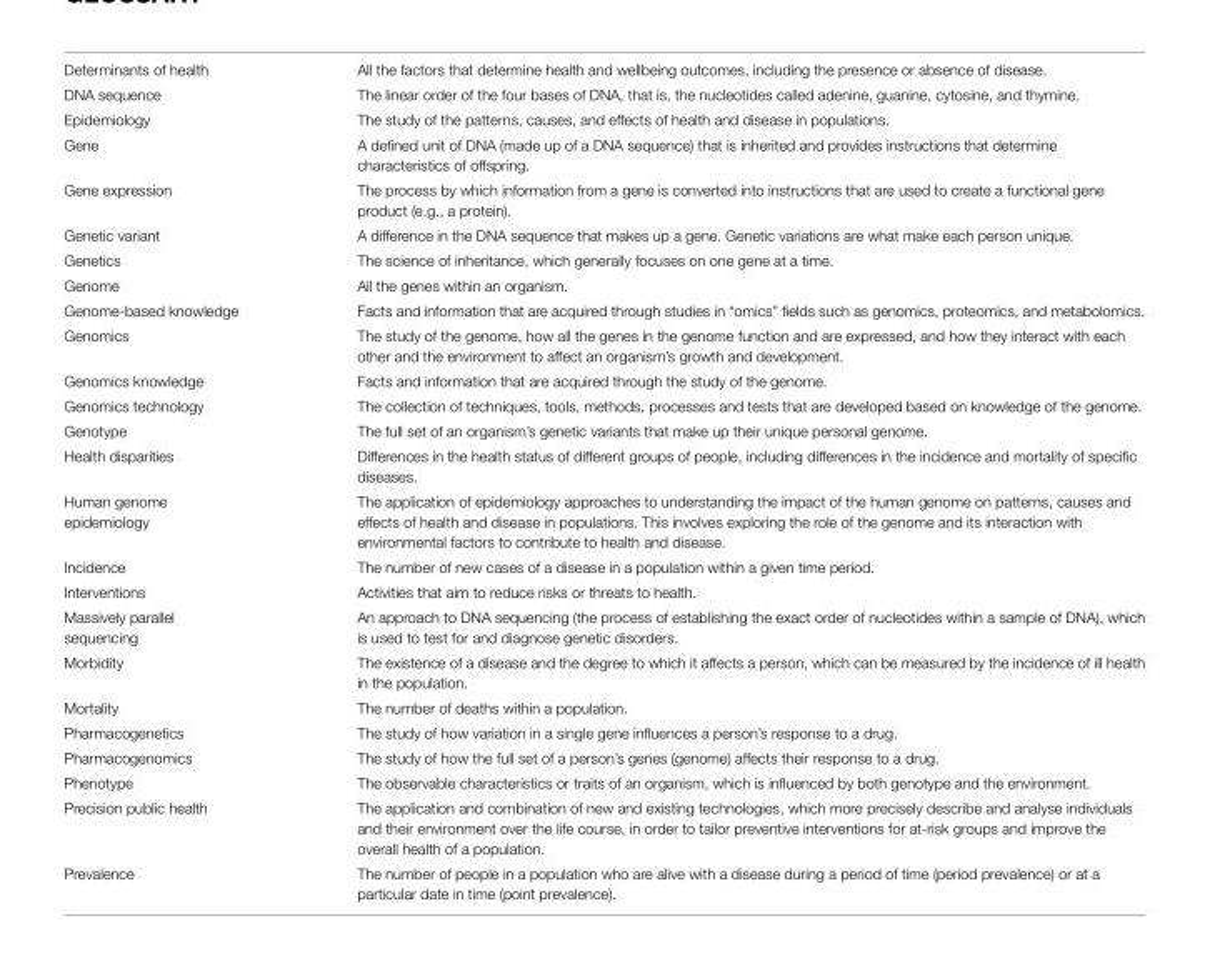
<table><tbody><tr><td>Determinants of health</td><td>All the factors that determine health and wellbeing outcomes, including the presence or absence of disease.</td></tr><tr><td>DNA sequence</td><td>The linear order of the four bases of DNA, that is, the nucleotides called adenine, guanine, cytosine, and thymine.</td></tr><tr><td>Epidemiology</td><td>The study of the patterns, causes, and effects of health and disease in populations.</td></tr><tr><td>Gene</td><td>A defined unit of DNA (made up of a DNA sequence) that is inherited and provides instructions that determine characteristics of offspring.</td></tr><tr><td>Gene expression</td><td>The process by which information from a gene is converted into instructions that are used to create a functional gene product (e.g., a protein).</td></tr><tr><td>Genetic variant</td><td>A difference in the DNA sequence that makes up a gene. Genetic variations are what make each person unique.</td></tr><tr><td>Genetics</td><td>The science of inheritance, which generally focuses on one gene at a time.</td></tr><tr><td>Genome</td><td>All the genes within an organism.</td></tr><tr><td>Genome-based knowledge</td><td>Facts and information that are acquired through studies in “omics” fields such as genomics, proteomics, and metabolomics.</td></tr><tr><td>Genomics</td><td>The study of the genome, how all the genes in the genome function and are expressed, and how they interact with each other and the environment to affect an organism’s growth and development.</td></tr><tr><td>Genomics knowledge</td><td>Facts and information that are acquired through the study of the genome.</td></tr><tr><td>Genomics technology</td><td>The collection of techniques, tools, methods, processes and tests that are developed based on knowledge of the genome.</td></tr><tr><td>Genotype</td><td>The full set of an organism’s genetic variants that make up their unique personal genome.</td></tr><tr><td>Health disparities</td><td>Differences in the health status of different groups of people, including differences in the incidence and mortality of specific diseases.</td></tr><tr><td>Human genome epidemiology</td><td>The application of epidemiology approaches to understanding the impact of the human genome on patterns, causes and effects of health and disease in populations. This involves exploring the role of the genome and its interaction with environmental factors to contribute to health and disease.</td></tr><tr><td>Incidence</td><td>The number of new cases of a disease in a population within a given time period.</td></tr><tr><td>Interventions</td><td>Activities that aim to reduce risks or threats to health.</td></tr><tr><td>Massively parallel sequencing</td><td>An approach to DNA sequencing (the process of establishing the exact order of nucleotides within a sample of DNA), which is used to test for and diagnose genetic disorders.</td></tr><tr><td>Morbidity</td><td>The existence of a disease and the degree to which it affects a person, which can be measured by the incidence of ill health in the population.</td></tr><tr><td>Mortality</td><td>The number of deaths within a population.</td></tr><tr><td>Pharmacogenetics</td><td>The study of how variation in a single gene influences a person’s response to a drug.</td></tr><tr><td>Pharmacogenomics</td><td>The study of how the full set of a person’s genes (genome) affects their response to a drug.</td></tr><tr><td>Phenotype</td><td>The observable characteristics or traits of an organism, which is influenced by both genotype and the environment.</td></tr><tr><td>Precision public health</td><td>The application and combination of new and existing technologies, which more precisely describe and analyse individuals and their environment over the life course, in order to tailor preventive interventions for at-risk groups and improve the overall health of a population.</td></tr><tr><td>Prevalence</td><td>The number of people in a population who are alive with a disease during a period of time (period prevalence) or at a particular date in time (point prevalence).</td></tr></tbody></table>